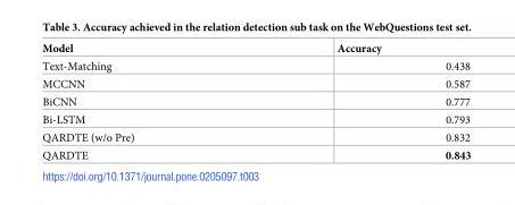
<table><thead><tr><td>Model</td><td>Accuracy</td></tr></thead><tbody><tr><td>Text-Matching</td><td>0.438</td></tr><tr><td>MCCNN</td><td>0.587</td></tr><tr><td>BiCNN</td><td>0.777</td></tr><tr><td>Bi-LSTM</td><td>0.793</td></tr><tr><td>QARDTE (w/o Pre)</td><td>0.832</td></tr><tr><td>QARDTE</td><td>0.843</td></tr></tbody></table>